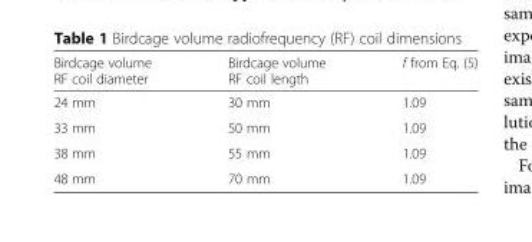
<table><thead><tr><td>Birdcage volume RF coil diameter</td><td>Birdcage volume RF coil length</td><td>f from Eq. (5)</td></tr></thead><tbody><tr><td>24 mm</td><td>30 mm</td><td>1.09</td></tr><tr><td>33 mm</td><td>50 mm</td><td>1.09</td></tr><tr><td>38 mm</td><td>55 mm</td><td>1.09</td></tr><tr><td>48 mm</td><td>70 mm</td><td>1.09</td></tr></tbody></table>